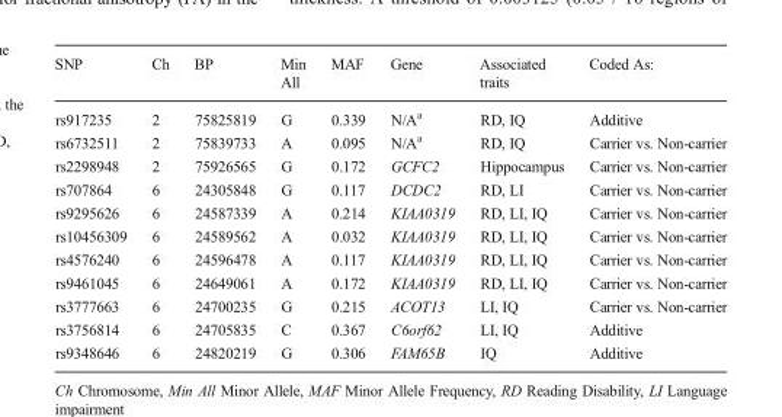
<table><thead><tr><td>SNP</td><td>Ch</td><td>BP</td><td>Min All</td><td>MAF</td><td>Gene</td><td>Associated traits</td><td>Coded As:</td></tr></thead><tbody><tr><td>rs917235</td><td>2</td><td>75825819</td><td>G</td><td>0.339</td><td>N/A<sup>a</sup></td><td>RD, IQ</td><td>Additive</td></tr><tr><td>rs6732511</td><td>2</td><td>75839733</td><td>A</td><td>0.095</td><td>N/A<sup>a</sup></td><td>RD, IQ</td><td>Carrier vs. Non-carrier</td></tr><tr><td>rs2298948</td><td>2</td><td>75926565</td><td>G</td><td>0.172</td><td>GCFC2</td><td>Hippocampus</td><td>Carrier vs. Non-carrier</td></tr><tr><td>rs707864</td><td>6</td><td>24305848</td><td>G</td><td>0.117</td><td>DCDC2</td><td>RD, LI</td><td>Carrier vs. Non-carrier</td></tr><tr><td>rs9295626</td><td>6</td><td>24587339</td><td>A</td><td>0.214</td><td>KIAA0319</td><td>RD, LI, IQ</td><td>Carrier vs. Non-carrier</td></tr><tr><td>rs10456309</td><td>6</td><td>24589562</td><td>A</td><td>0.032</td><td>KIAA0319</td><td>RD, LI, IQ</td><td>Carrier vs. Non-carrier</td></tr><tr><td>rs4576240</td><td>6</td><td>24596478</td><td>A</td><td>0.117</td><td>KIAA0319</td><td>RD, LI, IQ</td><td>Carrier vs. Non-carrier</td></tr><tr><td>rs9461045</td><td>6</td><td>24649061</td><td>A</td><td>0.172</td><td>KIAA0319</td><td>RD, LI, IQ</td><td>Carrier vs. Non-carrier</td></tr><tr><td>rs3777663</td><td>6</td><td>24700235</td><td>G</td><td>0.215</td><td>ACOT13</td><td>LI, IQ</td><td>Carrier vs. Non-carrier</td></tr><tr><td>rs3756814</td><td>6</td><td>24705835</td><td>C</td><td>0.367</td><td>C6orf62</td><td>LI, IQ</td><td>Additive</td></tr><tr><td>rs9348646</td><td>6</td><td>24820219</td><td>G</td><td>0.306</td><td>FAM65B</td><td>IQ</td><td>Additive</td></tr></tbody></table>